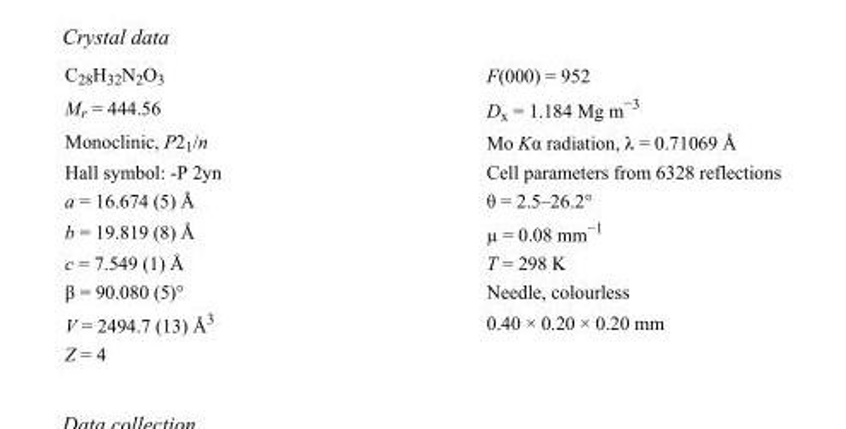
<table><tbody><tr><td>C<sub>28</sub>H<sub>32</sub>N<sub>2</sub>O<sub>3</sub></td><td>F(000) = 952</td></tr><tr><td>M<sub>r</sub> = 444.56</td><td>D<sub>x</sub> = 1.184 Mg m<sup>−3</sup></td></tr><tr><td>Monoclinic, P2<sub>1</sub>/n</td><td>Mo Kα radiation, λ = 0.71069 Å</td></tr><tr><td>Hall symbol: -P 2yn</td><td>Cell parameters from 6328 reflections</td></tr><tr><td>a = 16.674 (5) Å</td><td>θ = 2.5–26.2°</td></tr><tr><td>b = 19.819 (8) Å</td><td>µ = 0.08 mm<sup>−1</sup></td></tr><tr><td>c = 7.549 (1) Å</td><td>T = 298 K</td></tr><tr><td>β = 90.080 (5)°</td><td>Needle, colourless</td></tr><tr><td>V = 2494.7 (13) Å<sup>3</sup></td><td>0.40 × 0.20 × 0.20 mm</td></tr><tr><td>Z = 4</td><td></td></tr></tbody></table>